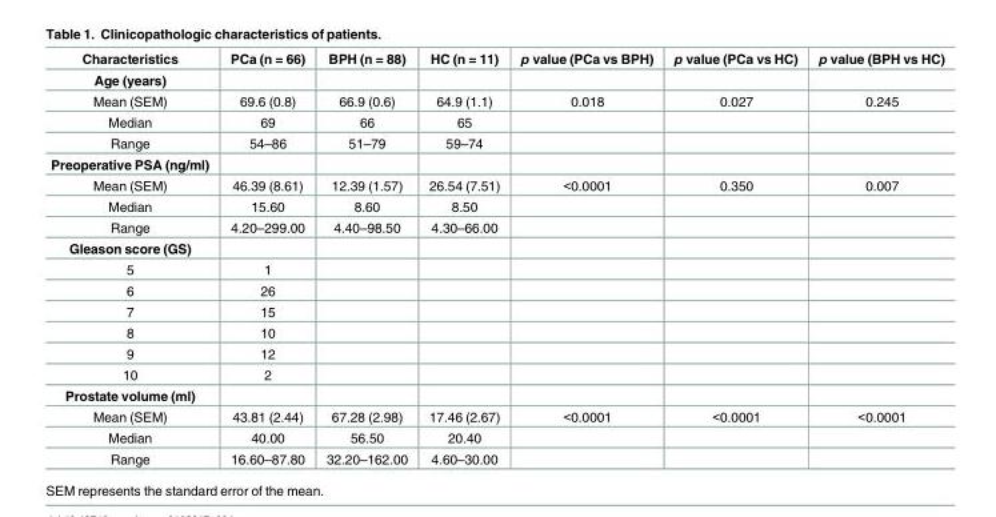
<table><thead><tr><td>Characteristics</td><td>PCa (n = 66)</td><td>BPH (n = 88)</td><td>HC (n = 11)</td><td>p value (PCa vs BPH)</td><td>p value (PCa vs HC)</td><td>p value (BPH vs HC)</td></tr></thead><tbody><tr><td colspan="7">Age (years)</td></tr><tr><td>Mean (SEM)</td><td>69.6 (0.8)</td><td>66.9 (0.6)</td><td>64.9 (1.1)</td><td>0.018</td><td>0.027</td><td>0.245</td></tr><tr><td>Median</td><td>69</td><td>66</td><td>65</td><td></td><td></td><td></td></tr><tr><td>Range</td><td>54–86</td><td>51–79</td><td>59–74</td><td></td><td></td><td></td></tr><tr><td colspan="7">Preoperative PSA (ng/ml)</td></tr><tr><td>Mean (SEM)</td><td>46.39 (8.61)</td><td>12.39 (1.57)</td><td>26.54 (7.51)</td><td>&lt;0.0001</td><td>0.350</td><td>0.007</td></tr><tr><td>Median</td><td>15.60</td><td>8.60</td><td>8.50</td><td></td><td></td><td></td></tr><tr><td>Range</td><td>4.20–299.00</td><td>4.40–98.50</td><td>4.30–66.00</td><td></td><td></td><td></td></tr><tr><td colspan="7">Gleason score (GS)</td></tr><tr><td>5</td><td>1</td><td></td><td></td><td></td><td></td><td></td></tr><tr><td>6</td><td>26</td><td></td><td></td><td></td><td></td><td></td></tr><tr><td>7</td><td>15</td><td></td><td></td><td></td><td></td><td></td></tr><tr><td>8</td><td>10</td><td></td><td></td><td></td><td></td><td></td></tr><tr><td>9</td><td>12</td><td></td><td></td><td></td><td></td><td></td></tr><tr><td>10</td><td>2</td><td></td><td></td><td></td><td></td><td></td></tr><tr><td colspan="7">Prostate volume (ml)</td></tr><tr><td>Mean (SEM)</td><td>43.81 (2.44)</td><td>67.28 (2.98)</td><td>17.46 (2.67)</td><td>&lt;0.0001</td><td>&lt;0.0001</td><td>&lt;0.0001</td></tr><tr><td>Median</td><td>40.00</td><td>56.50</td><td>20.40</td><td></td><td></td><td></td></tr><tr><td>Range</td><td>16.60–87.80</td><td>32.20–162.00</td><td>4.60–30.00</td><td></td><td></td><td></td></tr></tbody></table>